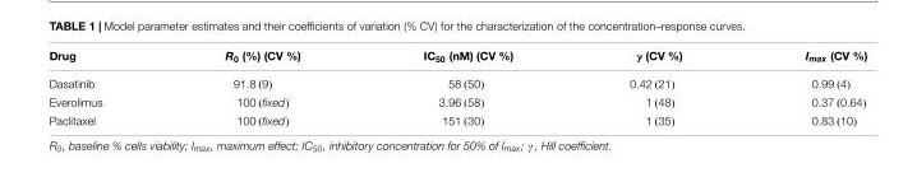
<table><thead><tr><td>Drug</td><td>R<sub>0</sub> (%) (CV %)</td><td>IC<sub>50</sub> (nM) (CV %)</td><td>γ (CV %)</td><td>I<sub>max</sub> (CV %)</td></tr></thead><tbody><tr><td>Dasatinib</td><td>91.8 (9)</td><td>58 (50)</td><td>0.42 (21)</td><td>0.99 (4)</td></tr><tr><td>Everolimus</td><td>100 (fixed)</td><td>3.96 (58)</td><td>1 (48)</td><td>0.37 (0.64)</td></tr><tr><td>Paclitaxel</td><td>100 (fixed)</td><td>151 (30)</td><td>1 (35)</td><td>0.83 (10)</td></tr></tbody></table>